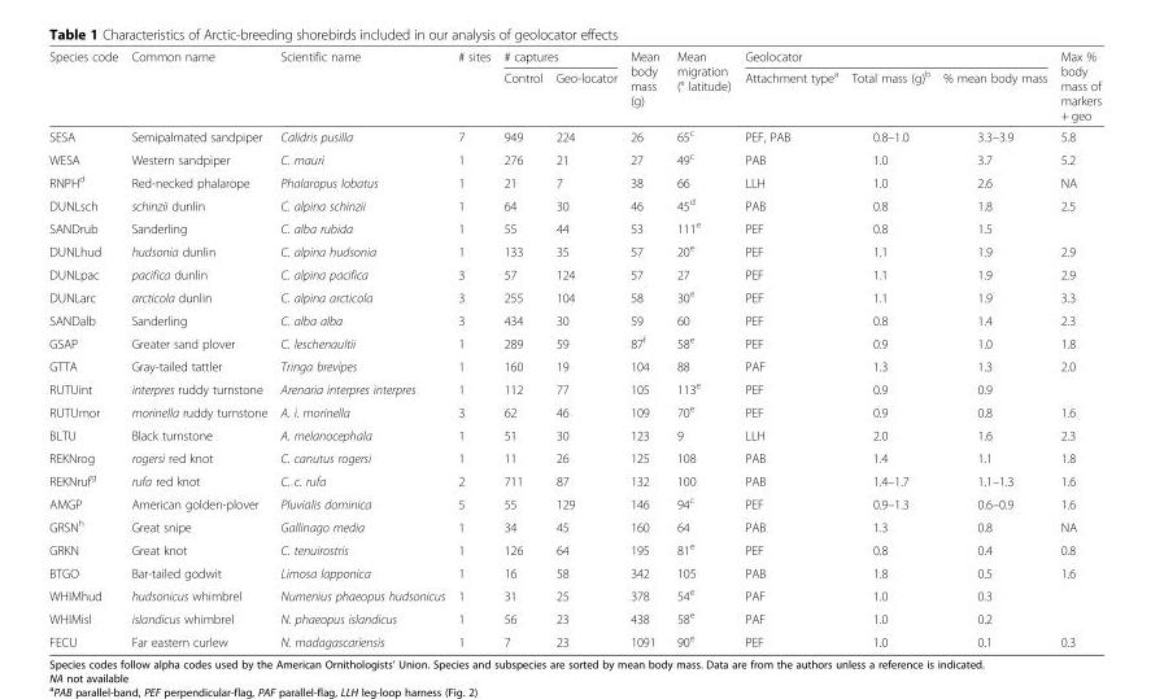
<table><thead><tr><td rowspan="2">Species code</td><td rowspan="2">Common name</td><td rowspan="2">Scientific name</td><td rowspan="2"># sites</td><td colspan="2"># captures</td><td rowspan="2">Mean body mass (g)</td><td rowspan="2">Mean migration (° latitude)</td><td colspan="3">Geolocator</td><td rowspan="2">Max % body mass of markers + geo</td></tr><tr><td>Control</td><td>Geo-locator</td><td>Attachment type<sup>a</sup></td><td>Total mass (g)<sup>b</sup></td><td>% mean body mass</td></tr></thead><tbody><tr><td>SESA</td><td>Semipalmated sandpiper</td><td>Calidris pusilla</td><td>7</td><td>949</td><td>224</td><td>26</td><td>65<sup>c</sup></td><td>PEF, PAB</td><td>0.8–1.0</td><td>3.3–3.9</td><td>5.8</td></tr><tr><td>WESA</td><td>Western sandpiper</td><td>C. mauri</td><td>1</td><td>276</td><td>21</td><td>27</td><td>49<sup>c</sup></td><td>PAB</td><td>1.0</td><td>3.7</td><td>5.2</td></tr><tr><td>RNPH<sup>d</sup></td><td>Red-necked phalarope</td><td>Phalaropus lobatus</td><td>1</td><td>21</td><td>7</td><td>38</td><td>66</td><td>LLH</td><td>1.0</td><td>2.6</td><td>NA</td></tr><tr><td>DUNLsch</td><td>schinzii dunlin</td><td>C. alpina schinzii</td><td>1</td><td>64</td><td>30</td><td>46</td><td>45<sup>d</sup></td><td>PAB</td><td>0.8</td><td>1.8</td><td>2.5</td></tr><tr><td>SANDrub</td><td>Sanderling</td><td>C. alba rubida</td><td>1</td><td>55</td><td>44</td><td>53</td><td>111<sup>e</sup></td><td>PEF</td><td>0.8</td><td>1.5</td><td></td></tr><tr><td>DUNLhud</td><td>hudsonia dunlin</td><td>C. alpina hudsonia</td><td>1</td><td>133</td><td>35</td><td>57</td><td>20<sup>e</sup></td><td>PEF</td><td>1.1</td><td>1.9</td><td>2.9</td></tr><tr><td>DUNLpac</td><td>pacifica dunlin</td><td>C. alpina pacifica</td><td>3</td><td>57</td><td>124</td><td>57</td><td>27</td><td>PEF</td><td>1.1</td><td>1.9</td><td>2.9</td></tr><tr><td>DUNLarc</td><td>arcticola dunlin</td><td>C. alpina arcticola</td><td>3</td><td>255</td><td>104</td><td>58</td><td>30<sup>e</sup></td><td>PEF</td><td>1.1</td><td>1.9</td><td>3.3</td></tr><tr><td>SANDalb</td><td>Sanderling</td><td>C. alba alba</td><td>3</td><td>434</td><td>30</td><td>59</td><td>60</td><td>PEF</td><td>0.8</td><td>1.4</td><td>2.3</td></tr><tr><td>GSAP</td><td>Greater sand plover</td><td>C. leschenaultii</td><td>1</td><td>289</td><td>59</td><td>87<sup>f</sup></td><td>58<sup>e</sup></td><td>PEF</td><td>0.9</td><td>1.0</td><td>1.8</td></tr><tr><td>GTTA</td><td>Gray-tailed tattler</td><td>Tringa brevipes</td><td>1</td><td>160</td><td>19</td><td>104</td><td>88</td><td>PAF</td><td>1.3</td><td>1.3</td><td>2.0</td></tr><tr><td>RUTUint</td><td>interpres ruddy turnstone</td><td>Arenaria interpres interpres</td><td>1</td><td>112</td><td>77</td><td>105</td><td>113<sup>e</sup></td><td>PEF</td><td>0.9</td><td>0.9</td><td></td></tr><tr><td>RUTUmor</td><td>morinella ruddy turnstone</td><td>A. i. morinella</td><td>3</td><td>62</td><td>46</td><td>109</td><td>70<sup>e</sup></td><td>PEF</td><td>0.9</td><td>0.8</td><td>1.6</td></tr><tr><td>BLTU</td><td>Black turnstone</td><td>A. melanocephala</td><td>1</td><td>51</td><td>30</td><td>123</td><td>9</td><td>LLH</td><td>2.0</td><td>1.6</td><td>2.3</td></tr><tr><td>REKNrog</td><td>rogersi red knot</td><td>C. canutus rogersi</td><td>1</td><td>11</td><td>26</td><td>125</td><td>108</td><td>PAB</td><td>1.4</td><td>1.1</td><td>1.8</td></tr><tr><td>REKNruf<sup>g</sup></td><td>rufa red knot</td><td>C. c. rufa</td><td>2</td><td>711</td><td>87</td><td>132</td><td>100</td><td>PAB</td><td>1.4–1.7</td><td>1.1–1.3</td><td>1.6</td></tr><tr><td>AMGP</td><td>American golden-plover</td><td>Pluvialis dominica</td><td>5</td><td>55</td><td>129</td><td>146</td><td>94<sup>c</sup></td><td>PEF</td><td>0.9–1.3</td><td>0.6–0.9</td><td>1.6</td></tr><tr><td>GRSN<sup>h</sup></td><td>Great snipe</td><td>Gallinago media</td><td>1</td><td>34</td><td>45</td><td>160</td><td>64</td><td>PAB</td><td>1.3</td><td>0.8</td><td>NA</td></tr><tr><td>GRKN</td><td>Great knot</td><td>C. tenuirostris</td><td>1</td><td>126</td><td>64</td><td>195</td><td>81<sup>e</sup></td><td>PEF</td><td>0.8</td><td>0.4</td><td>0.8</td></tr><tr><td>BTGO</td><td>Bar-tailed godwit</td><td>Limosa lapponica</td><td>1</td><td>16</td><td>58</td><td>342</td><td>105</td><td>PAB</td><td>1.8</td><td>0.5</td><td>1.6</td></tr><tr><td>WHIMhud</td><td>hudsonicus whimbrel</td><td>Numenius phaeopus hudsonicus</td><td>1</td><td>31</td><td>25</td><td>378</td><td>54<sup>e</sup></td><td>PAF</td><td>1.0</td><td>0.3</td><td></td></tr><tr><td>WHIMisl</td><td>islandicus whimbrel</td><td>N. phaeopus islandicus</td><td>1</td><td>56</td><td>23</td><td>438</td><td>58<sup>e</sup></td><td>PAF</td><td>1.0</td><td>0.2</td><td></td></tr><tr><td>FECU</td><td>Far eastern curlew</td><td>N. madagascariensis</td><td>1</td><td>7</td><td>23</td><td>1091</td><td>90<sup>e</sup></td><td>PEF</td><td>1.0</td><td>0.1</td><td>0.3</td></tr></tbody></table>